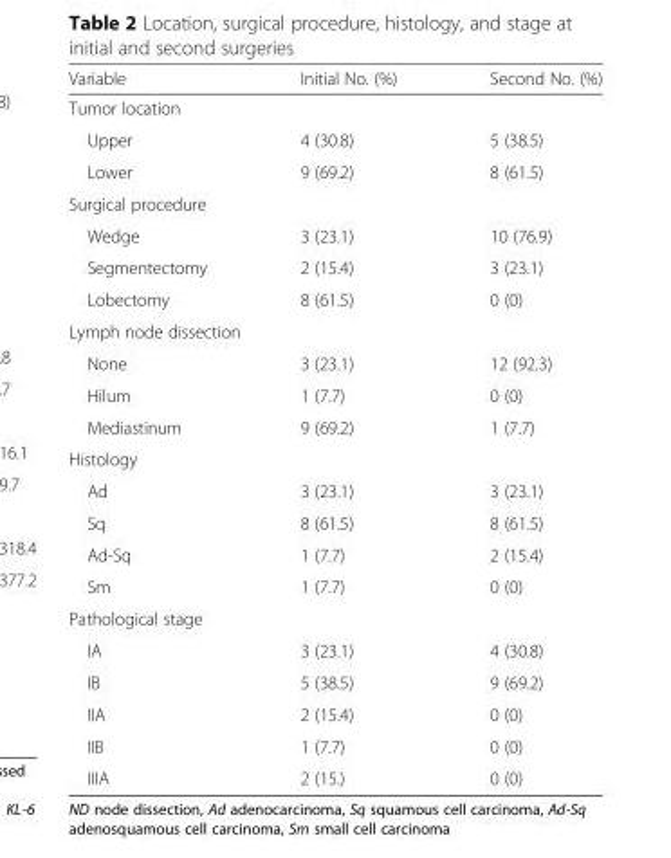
<table><thead><tr><td>Variable</td><td>Initial No. (%)</td><td>Second No. (%)</td></tr></thead><tbody><tr><td colspan="3">Tumor location</td></tr><tr><td>Upper</td><td>4 (30.8)</td><td>5 (38.5)</td></tr><tr><td>Lower</td><td>9 (69.2)</td><td>8 (61.5)</td></tr><tr><td colspan="3">Surgical procedure</td></tr><tr><td>Wedge</td><td>3 (23.1)</td><td>10 (76.9)</td></tr><tr><td>Segmentectomy</td><td>2 (15.4)</td><td>3 (23.1)</td></tr><tr><td>Lobectomy</td><td>8 (61.5)</td><td>0 (0)</td></tr><tr><td colspan="3">Lymph node dissection</td></tr><tr><td>None</td><td>3 (23.1)</td><td>12 (92.3)</td></tr><tr><td>Hilum</td><td>1 (7.7)</td><td>0 (0)</td></tr><tr><td>Mediastinum</td><td>9 (69.2)</td><td>1 (7.7)</td></tr><tr><td colspan="3">Histology</td></tr><tr><td>Ad</td><td>3 (23.1)</td><td>3 (23.1)</td></tr><tr><td>Sq</td><td>8 (61.5)</td><td>8 (61.5)</td></tr><tr><td>Ad-Sq</td><td>1 (7.7)</td><td>2 (15.4)</td></tr><tr><td>Sm</td><td>1 (7.7)</td><td>0 (0)</td></tr><tr><td colspan="3">Pathological stage</td></tr><tr><td>IA</td><td>3 (23.1)</td><td>4 (30.8)</td></tr><tr><td>IB</td><td>5 (38.5)</td><td>9 (69.2)</td></tr><tr><td>IIA</td><td>2 (15.4)</td><td>0 (0)</td></tr><tr><td>IIB</td><td>1 (7.7)</td><td>0 (0)</td></tr><tr><td>IIIA</td><td>2 (15.)</td><td>0 (0)</td></tr></tbody></table>